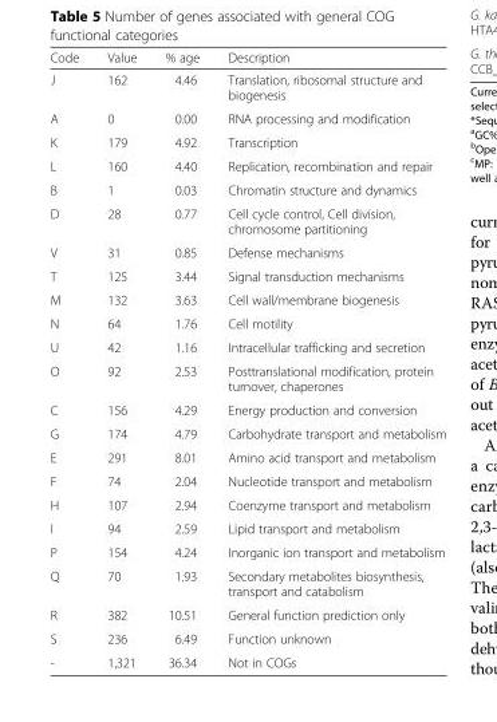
<table><thead><tr><td>Code</td><td>Value</td><td>% age</td><td>Description</td></tr></thead><tbody><tr><td>J</td><td>162</td><td>4.46</td><td>Translation, ribosomal structure and biogenesis</td></tr><tr><td>A</td><td>0</td><td>0.00</td><td>RNA processing and modification</td></tr><tr><td>K</td><td>179</td><td>4.92</td><td>Transcription</td></tr><tr><td>L</td><td>160</td><td>4.40</td><td>Replication, recombination and repair</td></tr><tr><td>B</td><td>1</td><td>0.03</td><td>Chromatin structure and dynamics</td></tr><tr><td>D</td><td>28</td><td>0.77</td><td>Cell cycle control, Cell division, chromosome partitioning</td></tr><tr><td>V</td><td>31</td><td>0.85</td><td>Defense mechanisms</td></tr><tr><td>T</td><td>125</td><td>3.44</td><td>Signal transduction mechanisms</td></tr><tr><td>M</td><td>132</td><td>3.63</td><td>Cell wall/membrane biogenesis</td></tr><tr><td>N</td><td>64</td><td>1.76</td><td>Cell motility</td></tr><tr><td>U</td><td>42</td><td>1.16</td><td>Intracellular trafficking and secretion</td></tr><tr><td>O</td><td>92</td><td>2.53</td><td>Posttranslational modification, protein turnover, chaperones</td></tr><tr><td>C</td><td>156</td><td>4.29</td><td>Energy production and conversion</td></tr><tr><td>G</td><td>174</td><td>4.79</td><td>Carbohydrate transport and metabolism</td></tr><tr><td>E</td><td>291</td><td>8.01</td><td>Amino acid transport and metabolism</td></tr><tr><td>F</td><td>74</td><td>2.04</td><td>Nucleotide transport and metabolism</td></tr><tr><td>H</td><td>107</td><td>2.94</td><td>Coenzyme transport and metabolism</td></tr><tr><td>I</td><td>94</td><td>2.59</td><td>Lipid transport and metabolism</td></tr><tr><td>P</td><td>154</td><td>4.24</td><td>Inorganic ion transport and metabolism</td></tr><tr><td>Q</td><td>70</td><td>1.93</td><td>Secondary metabolites biosynthesis, transport and catabolism</td></tr><tr><td>R</td><td>382</td><td>10.51</td><td>General function prediction only</td></tr><tr><td>S</td><td>236</td><td>6.49</td><td>Function unknown</td></tr><tr><td>-</td><td>1,321</td><td>36.34</td><td>Not in COGs</td></tr></tbody></table>